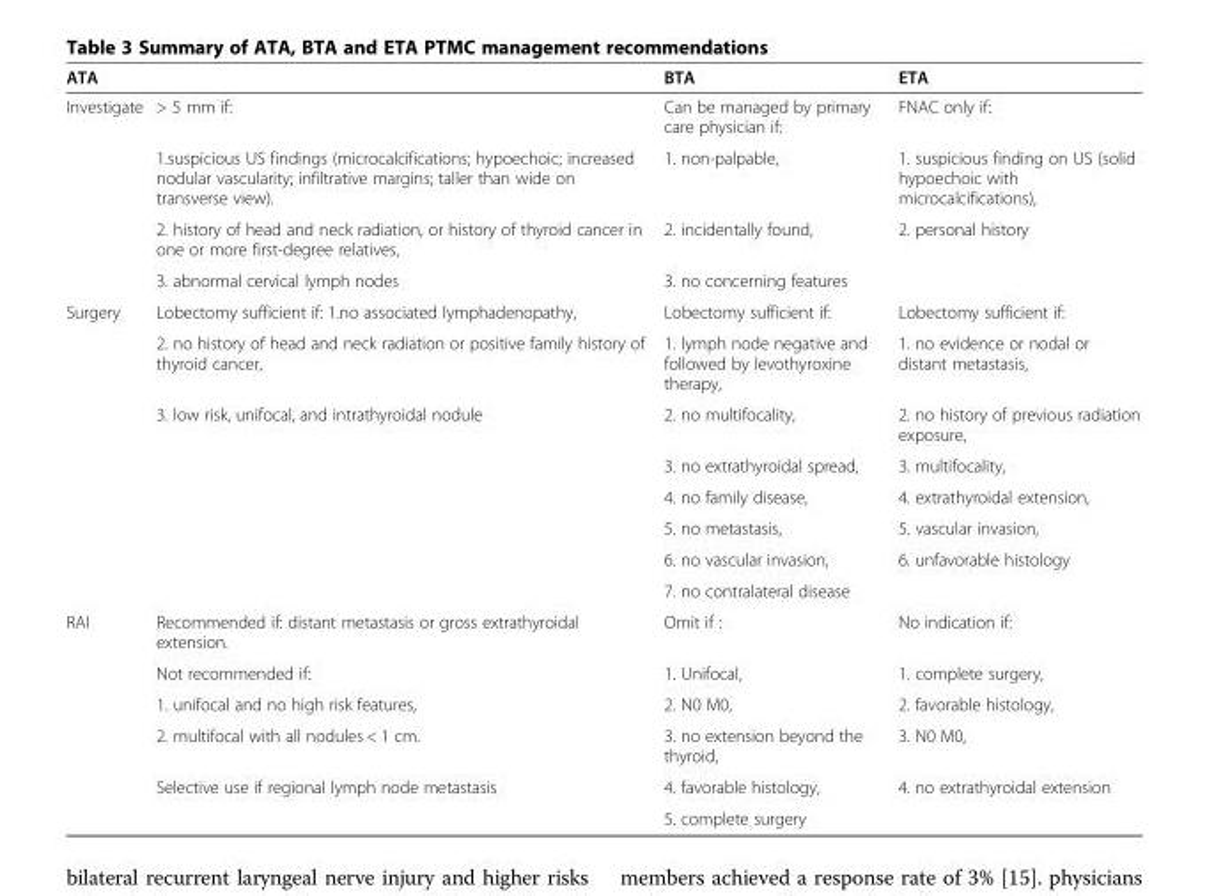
<table><thead><tr><td>ATA</td><td></td><td>BTA</td><td>ETA</td></tr></thead><tbody><tr><td rowspan="4">Investigate</td><td>&gt; 5 mm if:</td><td>Can be managed by primary care physician if:</td><td>FNAC only if:</td></tr><tr><td>1.suspicious US findings (microcalcifications; hypoechoic; increased nodular vascularity; infiltrative margins; taller than wide on transverse view).</td><td>1. non-palpable,</td><td>1. suspicious finding on US (solid hypoechoic with microcalcifications),</td></tr><tr><td>2. history of head and neck radiation, or history of thyroid cancer in one or more first-degree relatives,</td><td>2. incidentally found,</td><td rowspan="2">2. personal history</td></tr><tr><td>3. abnormal cervical lymph nodes</td><td>3. no concerning features</td></tr><tr><td rowspan="8">Surgery</td><td>Lobectomy sufficient if: 1.no associated lymphadenopathy,</td><td>Lobectomy sufficient if:</td><td>Lobectomy sufficient if:</td></tr><tr><td>2. no history of head and neck radiation or positive family history of thyroid cancer,</td><td>1. lymph node negative and followed by levothyroxine therapy,</td><td>1. no evidence or nodal or distant metastasis,</td></tr><tr><td rowspan="6">3. low risk, unifocal, and intrathyroidal nodule</td><td>2. no multifocality,</td><td>2. no history of previous radiation exposure,</td></tr><tr><td>3. no extrathyroidal spread,</td><td>3. multifocality,</td></tr><tr><td>4. no family disease,</td><td>4. extrathyroidal extension,</td></tr><tr><td>5. no metastasis,</td><td>5. vascular invasion,</td></tr><tr><td>6. no vascular invasion,</td><td rowspan="2">6. unfavorable histology</td></tr><tr><td>7. no contralateral disease</td></tr><tr><td rowspan="6">RAI</td><td>Recommended if: distant metastasis or gross extrathyroidal extension.</td><td>Omit if :</td><td>No indication if:</td></tr><tr><td>Not recommended if:</td><td>1. Unifocal,</td><td>1. complete surgery,</td></tr><tr><td>1. unifocal and no high risk features,</td><td>2. N0 M0,</td><td>2. favorable histology,</td></tr><tr><td>2. multifocal with all nodules &lt; 1 cm.</td><td>3. no extension beyond the thyroid,</td><td>3. N0 M0,</td></tr><tr><td rowspan="2">Selective use if regional lymph node metastasis</td><td>4. favorable histology,</td><td rowspan="2">4. no extrathyroidal extension</td></tr><tr><td>5. complete surgery</td></tr></tbody></table>